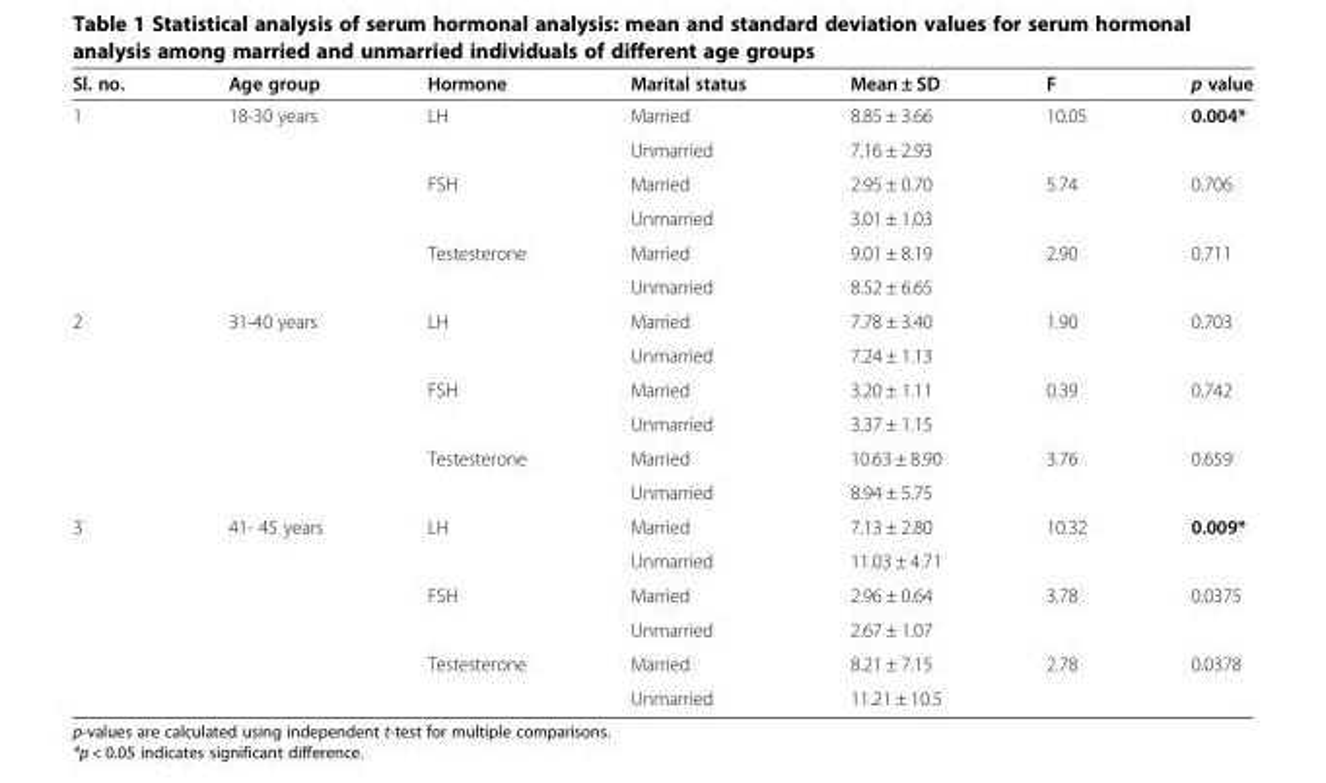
<table><thead><tr><td>Sl. no.</td><td>Age group</td><td>Hormone</td><td>Marital status</td><td>Mean ± SD</td><td>F</td><td>p value</td></tr></thead><tbody><tr><td rowspan="6">1</td><td rowspan="6">18-30 years</td><td rowspan="2">LH</td><td>Married</td><td>8.85 ± 3.66</td><td rowspan="2">10.05</td><td rowspan="2">0.004*</td></tr><tr><td>Unmarried</td><td>7.16 ± 2.93</td></tr><tr><td rowspan="2">FSH</td><td>Married</td><td>2.95 ± 0.70</td><td rowspan="2">5.74</td><td rowspan="2">0.706</td></tr><tr><td>Unmarried</td><td>3.01 ± 1.03</td></tr><tr><td rowspan="2">Testesterone</td><td>Married</td><td>9.01 ± 8.19</td><td rowspan="2">2.90</td><td rowspan="2">0.711</td></tr><tr><td>Unmarried</td><td>8.52 ± 6.65</td></tr><tr><td rowspan="6">2</td><td rowspan="6">31-40 years</td><td rowspan="2">LH</td><td>Married</td><td>7.78 ± 3.40</td><td rowspan="2">1.90</td><td rowspan="2">0.703</td></tr><tr><td>Unmarried</td><td>7.24 ± 1.13</td></tr><tr><td rowspan="2">FSH</td><td>Married</td><td>3.20 ± 1.11</td><td rowspan="2">0.39</td><td rowspan="2">0.742</td></tr><tr><td>Unmarried</td><td>3.37 ± 1.15</td></tr><tr><td rowspan="2">Testesterone</td><td>Married</td><td>10.63 ± 8.90</td><td rowspan="2">3.76</td><td rowspan="2">0.659</td></tr><tr><td>Unmarried</td><td>8.94 ± 5.75</td></tr><tr><td rowspan="6">3</td><td rowspan="6">41- 45 years</td><td rowspan="2">LH</td><td>Married</td><td>7.13 ± 2.80</td><td rowspan="2">10.32</td><td rowspan="2">0.009*</td></tr><tr><td>Unmarried</td><td>11.03 ± 4.71</td></tr><tr><td rowspan="2">FSH</td><td>Married</td><td>2.96 ± 0.64</td><td rowspan="2">3.78</td><td rowspan="2">0.0375</td></tr><tr><td>Unmarried</td><td>2.67 ± 1.07</td></tr><tr><td rowspan="2">Testesterone</td><td>Married</td><td>8.21 ± 7.15</td><td rowspan="2">2.78</td><td rowspan="2">0.0378</td></tr><tr><td>Unmarried</td><td>11.21 ± 10.5</td></tr></tbody></table>